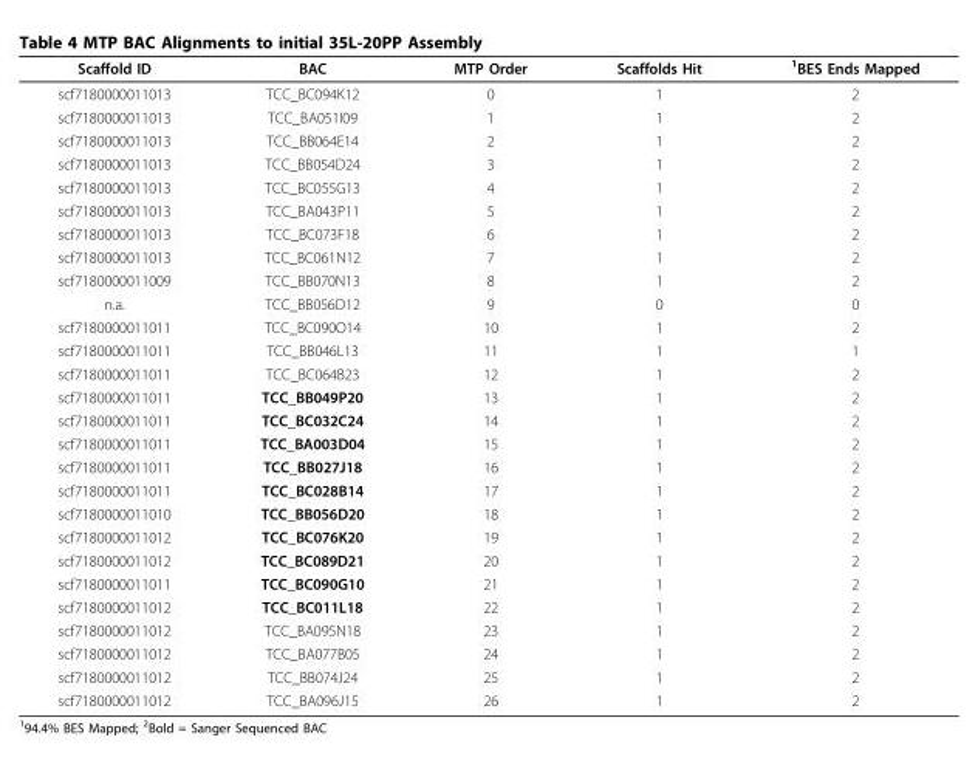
<table><thead><tr><td>Scaffold ID</td><td>BAC</td><td>MTP Order</td><td>Scaffolds Hit</td><td><sup>1</sup>BES Ends Mapped</td></tr></thead><tbody><tr><td>scf7180000011013</td><td>TCC_BC094K12</td><td>0</td><td>1</td><td>2</td></tr><tr><td>scf7180000011013</td><td>TCC_BA051I09</td><td>1</td><td>1</td><td>2</td></tr><tr><td>scf7180000011013</td><td>TCC_BB064E14</td><td>2</td><td>1</td><td>2</td></tr><tr><td>scf7180000011013</td><td>TCC_BB054D24</td><td>3</td><td>1</td><td>2</td></tr><tr><td>scf7180000011013</td><td>TCC_BC055G13</td><td>4</td><td>1</td><td>2</td></tr><tr><td>scf7180000011013</td><td>TCC_BA043P11</td><td>5</td><td>1</td><td>2</td></tr><tr><td>scf7180000011013</td><td>TCC_BC073F18</td><td>6</td><td>1</td><td>2</td></tr><tr><td>scf7180000011013</td><td>TCC_BC061N12</td><td>7</td><td>1</td><td>2</td></tr><tr><td>scf7180000011009</td><td>TCC_BB070N13</td><td>8</td><td>1</td><td>2</td></tr><tr><td>n.a.</td><td>TCC_BB056D12</td><td>9</td><td>0</td><td>0</td></tr><tr><td>scf7180000011011</td><td>TCC_BC090O14</td><td>10</td><td>1</td><td>2</td></tr><tr><td>scf7180000011011</td><td>TCC_BB046L13</td><td>11</td><td>1</td><td>1</td></tr><tr><td>scf7180000011011</td><td>TCC_BC064B23</td><td>12</td><td>1</td><td>2</td></tr><tr><td>scf7180000011011</td><td>TCC_BB049P20</td><td>13</td><td>1</td><td>2</td></tr><tr><td>scf7180000011011</td><td>TCC_BC032C24</td><td>14</td><td>1</td><td>2</td></tr><tr><td>scf7180000011011</td><td>TCC_BA003D04</td><td>15</td><td>1</td><td>2</td></tr><tr><td>scf7180000011011</td><td>TCC_BB027J18</td><td>16</td><td>1</td><td>2</td></tr><tr><td>scf7180000011011</td><td>TCC_BC028B14</td><td>17</td><td>1</td><td>2</td></tr><tr><td>scf7180000011010</td><td>TCC_BB056D20</td><td>18</td><td>1</td><td>2</td></tr><tr><td>scf7180000011012</td><td>TCC_BC076K20</td><td>19</td><td>1</td><td>2</td></tr><tr><td>scf7180000011012</td><td>TCC_BC089D21</td><td>20</td><td>1</td><td>2</td></tr><tr><td>scf7180000011011</td><td>TCC_BC090G10</td><td>21</td><td>1</td><td>2</td></tr><tr><td>scf7180000011012</td><td>TCC_BC011L18</td><td>22</td><td>1</td><td>2</td></tr><tr><td>scf7180000011012</td><td>TCC_BA095N18</td><td>23</td><td>1</td><td>2</td></tr><tr><td>scf7180000011012</td><td>TCC_BA077B05</td><td>24</td><td>1</td><td>2</td></tr><tr><td>scf7180000011012</td><td>TCC_BB074J24</td><td>25</td><td>1</td><td>2</td></tr><tr><td>scf7180000011012</td><td>TCC_BA096J15</td><td>26</td><td>1</td><td>2</td></tr></tbody></table>